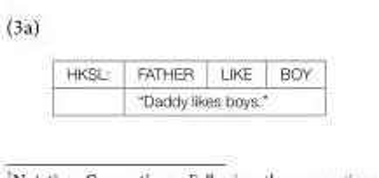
<table><tbody><tr><td rowspan="2">HKSL:</td><td>FATHER</td><td>LIKE</td><td>BOY</td></tr><tr><td colspan="3">“Daddy likes boys.”</td></tr></tbody></table>